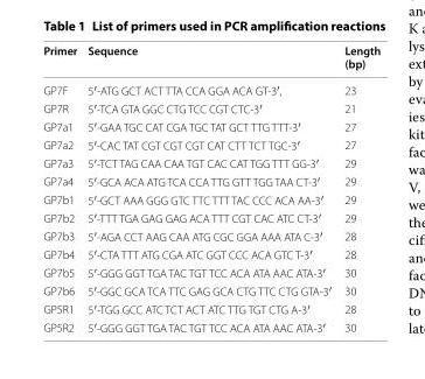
<table><thead><tr><td>Primer</td><td>Sequence</td><td>Length (bp)</td></tr></thead><tbody><tr><td>GP7F</td><td>5′-ATG GCT ACT TTA CCA GGA ACA GT-3′,</td><td>23</td></tr><tr><td>GP7R</td><td>5′-TCA GTA GGC CTG TCC CGT CTC-3′</td><td>21</td></tr><tr><td>GP7a1</td><td>5′-GAA TGC CAT CGA TGC TAT GCT TTG TTT-3′</td><td>27</td></tr><tr><td>GP7a2</td><td>5′-CAC TAT CGT CGT CGT CAT CTT TCT TGC-3′</td><td>27</td></tr><tr><td>GP7a3</td><td>5′-TCT TAG CAA CAA TGT CAC CAT TGG TTT GG-3′</td><td>29</td></tr><tr><td>GP7a4</td><td>5′-GCA ACA ATG TCA CCA TTG GTT TGG TAA CT-3′</td><td>29</td></tr><tr><td>GP7b1</td><td>5′-GCT AAA GGG GTC TTC TTT TAC CCC ACA AA-3′</td><td>29</td></tr><tr><td>GP7b2</td><td>5′-TTT TGA GAG GAG ACA TTT CGT CAC ATC CT-3′</td><td>29</td></tr><tr><td>GP7b3</td><td>5′-AGA CCT AAG CAA ATG CGC GGA AAA ATA C-3′</td><td>28</td></tr><tr><td>GP7b4</td><td>5′-CTA TTT ATG CGA ATC GGT CCC ACA GTC T-3′</td><td>28</td></tr><tr><td>GP7b5</td><td>5′-GGG GGT TGA TAC TGT TCC ACA ATA AAC ATA-3′</td><td>30</td></tr><tr><td>GP7b6</td><td>5′-GGC GCA TCA TTC GAG GCA CTG TTC CTG GTA-3′</td><td>30</td></tr><tr><td>GP5R1</td><td>5′-TGG GCC ATC TCT ACT ATC TTG TGT CTG A-3′</td><td>28</td></tr><tr><td>GP5R2</td><td>5′-GGG GGT TGA TAC TGT TCC ACA ATA AAC ATA-3′</td><td>30</td></tr></tbody></table>